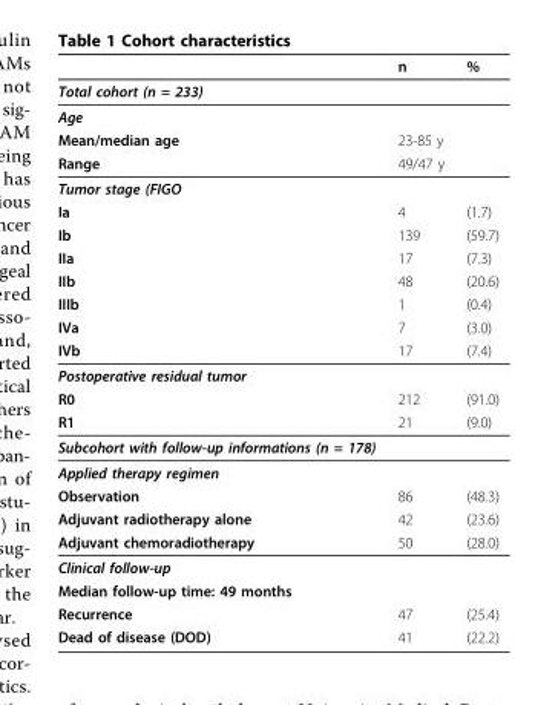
<table><thead><tr><td></td><td>n</td><td>%</td></tr></thead><tbody><tr><td colspan="3">Total cohort (n = 233)</td></tr><tr><td colspan="3">Age</td></tr><tr><td>Mean/median age</td><td>23-85 y</td><td></td></tr><tr><td>Range</td><td>49/47 y</td><td></td></tr><tr><td colspan="3">Tumor stage (FIGO</td></tr><tr><td>Ia</td><td>4</td><td>(1.7)</td></tr><tr><td>Ib</td><td>139</td><td>(59.7)</td></tr><tr><td>IIa</td><td>17</td><td>(7.3)</td></tr><tr><td>IIb</td><td>48</td><td>(20.6)</td></tr><tr><td>IIIb</td><td>1</td><td>(0.4)</td></tr><tr><td>IVa</td><td>7</td><td>(3.0)</td></tr><tr><td>IVb</td><td>17</td><td>(7.4)</td></tr><tr><td colspan="3">Postoperative residual tumor</td></tr><tr><td>R0</td><td>212</td><td>(91.0)</td></tr><tr><td>R1</td><td>21</td><td>(9.0)</td></tr><tr><td colspan="3">Subcohort with follow-up informations (n = 178)</td></tr><tr><td colspan="3">Applied therapy regimen</td></tr><tr><td>Observation</td><td>86</td><td>(48.3)</td></tr><tr><td>Adjuvant radiotherapy alone</td><td>42</td><td>(23.6)</td></tr><tr><td>Adjuvant chemoradiotherapy</td><td>50</td><td>(28.0)</td></tr><tr><td colspan="3">Clinical follow-up</td></tr><tr><td colspan="3">Median follow-up time: 49 months</td></tr><tr><td>Recurrence</td><td>47</td><td>(25.4)</td></tr><tr><td>Dead of disease (DOD)</td><td>41</td><td>(22.2)</td></tr></tbody></table>